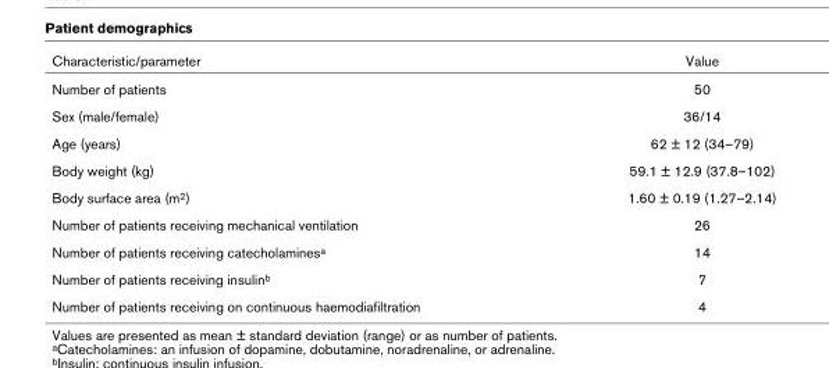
<table><thead><tr><td>Characteristic/parameter</td><td>Value</td></tr></thead><tbody><tr><td>Number of patients</td><td>50</td></tr><tr><td>Sex (male/female)</td><td>36/14</td></tr><tr><td>Age (years)</td><td>62 ± 12 (34–79)</td></tr><tr><td>Body weight (kg)</td><td>59.1 ± 12.9 (37.8–102)</td></tr><tr><td>Body surface area (m2)</td><td>1.60 ± 0.19 (1.27–2.14)</td></tr><tr><td>Number of patients receiving mechanical ventilation</td><td>26</td></tr><tr><td>Number of patients receiving catecholaminesa</td><td>14</td></tr><tr><td>Number of patients receiving insulinb</td><td>7</td></tr><tr><td>Number of patients receiving on continuous haemodiafiltration</td><td>4</td></tr></tbody></table>